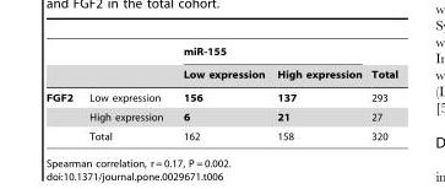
<table><thead><tr><td rowspan="2"></td><td rowspan="2"></td><td colspan="2">miR-155</td><td rowspan="2">Total</td></tr><tr><td>Low expression</td><td>High expression</td></tr></thead><tbody><tr><td rowspan="3">FGF2</td><td>Low expression</td><td>156</td><td>137</td><td>293</td></tr><tr><td>High expression</td><td>6</td><td>21</td><td>27</td></tr><tr><td>Total</td><td>162</td><td>158</td><td>320</td></tr></tbody></table>